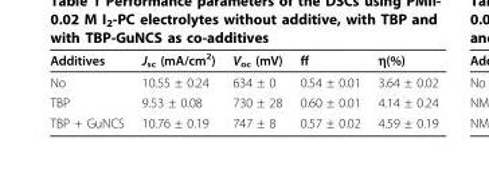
<table><thead><tr><td>Additives</td><td>J<sub>sc</sub> (mA/cm<sup>2</sup>)</td><td>V<sub>oc</sub> (mV)</td><td>ff</td><td>η(%)</td></tr></thead><tbody><tr><td>No</td><td>10.55 ± 0.24</td><td>634 ± 0</td><td>0.54 ± 0.01</td><td>3.64 ± 0.02</td></tr><tr><td>TBP</td><td>9.53 ± 0.08</td><td>730 ± 28</td><td>0.60 ± 0.01</td><td>4.14 ± 0.24</td></tr><tr><td>TBP + GuNCS</td><td>10.76 ± 0.19</td><td>747 ± 8</td><td>0.57 ± 0.02</td><td>4.59 ± 0.19</td></tr></tbody></table>